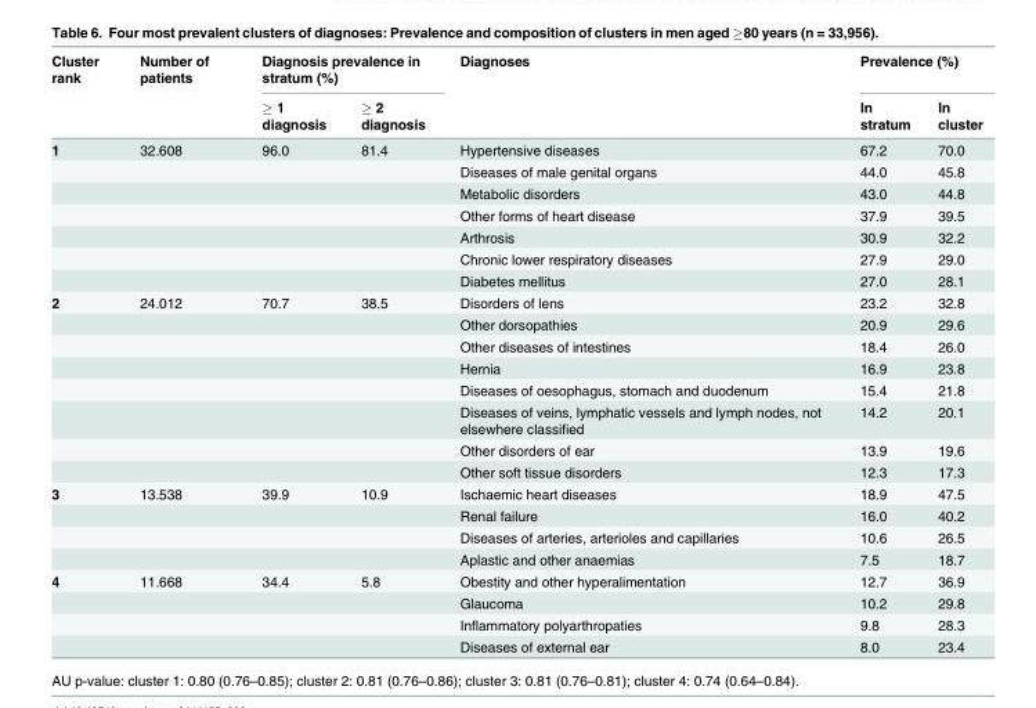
<table><thead><tr><td rowspan="2">Cluster rank</td><td rowspan="2">Number of patients</td><td colspan="2">Diagnosis prevalence in stratum (%)</td><td rowspan="2">Diagnoses</td><td colspan="2">Prevalence (%)</td></tr><tr><td>≥ 1 diagnosis</td><td>≥ 2 diagnosis</td><td>In stratum</td><td>In cluster</td></tr></thead><tbody><tr><td rowspan="7">1</td><td>32.608</td><td>96.0</td><td>81.4</td><td>Hypertensive diseases</td><td>67.2</td><td>70.0</td></tr><tr><td></td><td></td><td></td><td>Diseases of male genital organs</td><td>44.0</td><td>45.8</td></tr><tr><td></td><td></td><td></td><td>Metabolic disorders</td><td>43.0</td><td>44.8</td></tr><tr><td></td><td></td><td></td><td>Other forms of heart disease</td><td>37.9</td><td>39.5</td></tr><tr><td></td><td></td><td></td><td>Arthrosis</td><td>30.9</td><td>32.2</td></tr><tr><td></td><td></td><td></td><td>Chronic lower respiratory diseases</td><td>27.9</td><td>29.0</td></tr><tr><td></td><td></td><td></td><td>Diabetes mellitus</td><td>27.0</td><td>28.1</td></tr><tr><td rowspan="8">2</td><td>24.012</td><td>70.7</td><td>38.5</td><td>Disorders of lens</td><td>23.2</td><td>32.8</td></tr><tr><td></td><td></td><td></td><td>Other dorsopathies</td><td>20.9</td><td>29.6</td></tr><tr><td></td><td></td><td></td><td>Other diseases of intestines</td><td>18.4</td><td>26.0</td></tr><tr><td></td><td></td><td></td><td>Hernia</td><td>16.9</td><td>23.8</td></tr><tr><td></td><td></td><td></td><td>Diseases of oesophagus, stomach and duodenum</td><td>15.4</td><td>21.8</td></tr><tr><td></td><td></td><td></td><td>Diseases of veins, lymphatic vessels and lymph nodes, not elsewhere classified</td><td>14.2</td><td>20.1</td></tr><tr><td></td><td></td><td></td><td>Other disorders of ear</td><td>13.9</td><td>19.6</td></tr><tr><td></td><td></td><td></td><td>Other soft tissue disorders</td><td>12.3</td><td>17.3</td></tr><tr><td rowspan="4">3</td><td>13.538</td><td>39.9</td><td>10.9</td><td>Ischaemic heart diseases</td><td>18.9</td><td>47.5</td></tr><tr><td></td><td></td><td></td><td>Renal failure</td><td>16.0</td><td>40.2</td></tr><tr><td></td><td></td><td></td><td>Diseases of arteries, arterioles and capillaries</td><td>10.6</td><td>26.5</td></tr><tr><td></td><td></td><td></td><td>Aplastic and other anaemias</td><td>7.5</td><td>18.7</td></tr><tr><td rowspan="4">4</td><td>11.668</td><td>34.4</td><td>5.8</td><td>Obestity and other hyperalimentation</td><td>12.7</td><td>36.9</td></tr><tr><td></td><td></td><td></td><td>Glaucoma</td><td>10.2</td><td>29.8</td></tr><tr><td></td><td></td><td></td><td>Inflammatory polyarthropaties</td><td>9.8</td><td>28.3</td></tr><tr><td></td><td></td><td></td><td>Diseases of external ear</td><td>8.0</td><td>23.4</td></tr></tbody></table>